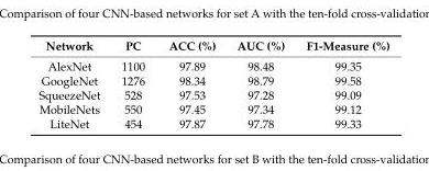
<table><thead><tr><td>Network</td><td>PC</td><td>ACC (%)</td><td>AUC (%)</td><td>F1-Measure (%)</td></tr></thead><tbody><tr><td>AlexNet</td><td>1100</td><td>97.89</td><td>98.48</td><td>99.35</td></tr><tr><td>GoogleNet</td><td>1276</td><td>98.34</td><td>98.79</td><td>99.58</td></tr><tr><td>SqueezeNet</td><td>528</td><td>97.53</td><td>97.28</td><td>99.09</td></tr><tr><td>MobileNets</td><td>550</td><td>97.45</td><td>97.34</td><td>99.12</td></tr><tr><td>LiteNet</td><td>454</td><td>97.87</td><td>97.78</td><td>99.33</td></tr></tbody></table>